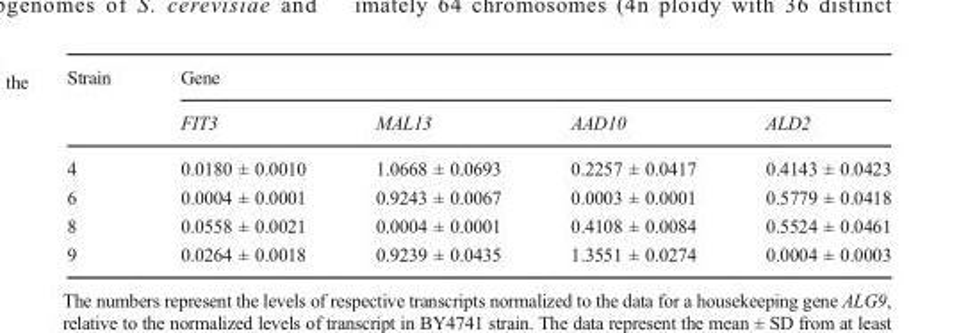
<table><thead><tr><td rowspan="2">Strain</td><td colspan="4">Gene</td></tr><tr><td>FIT3</td><td>MAL13</td><td>AAD10</td><td>ALD2</td></tr></thead><tbody><tr><td>4</td><td>0.0180 ± 0.0010</td><td>1.0668 ± 0.0693</td><td>0.2257 ± 0.0417</td><td>0.4143 ± 0.0423</td></tr><tr><td>6</td><td>0.0004 ± 0.0001</td><td>0.9243 ± 0.0067</td><td>0.0003 ± 0.0001</td><td>0.5779 ± 0.0418</td></tr><tr><td>8</td><td>0.0558 ± 0.0021</td><td>0.0004 ± 0.0001</td><td>0.4108 ± 0.0084</td><td>0.5524 ± 0.0461</td></tr><tr><td>9</td><td>0.0264 ± 0.0018</td><td>0.9239 ± 0.0435</td><td>1.3551 ± 0.0274</td><td>0.0004 ± 0.0003</td></tr></tbody></table>